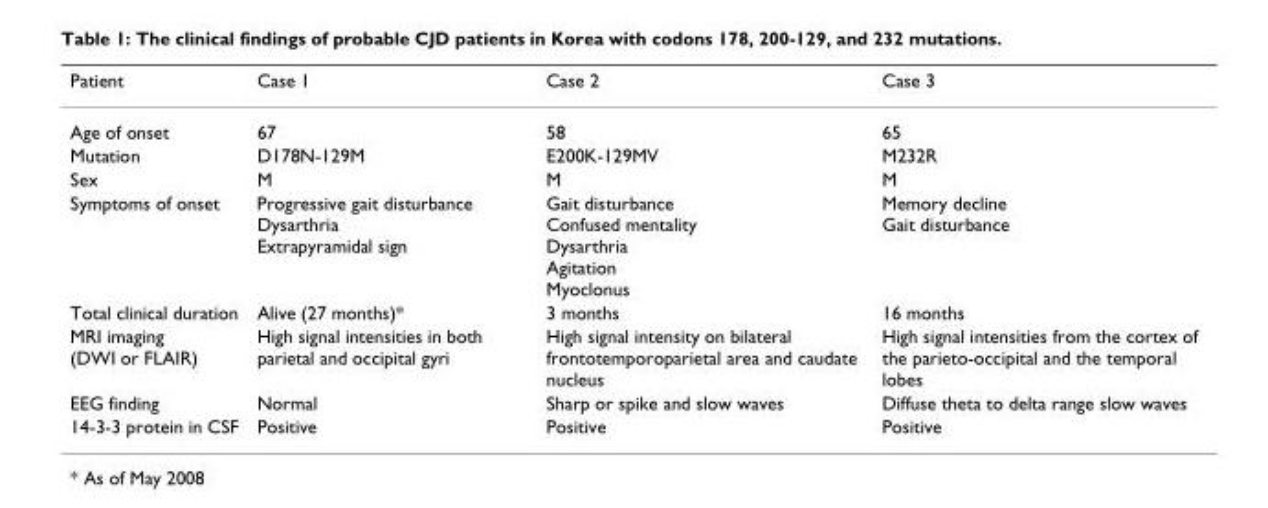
<table><thead><tr><td>Patient</td><td>Case 1</td><td>Case 2</td><td>Case 3</td></tr></thead><tbody><tr><td>Age of onset</td><td>67</td><td>58</td><td>65</td></tr><tr><td>Mutation</td><td>D178N-129M</td><td>E200K-129MV</td><td>M232R</td></tr><tr><td>Sex</td><td>M</td><td>M</td><td>M</td></tr><tr><td>Symptoms of onset</td><td>Progressive gait disturbance Dysarthria Extrapyramidal sign</td><td>Gait disturbance Confused mentality Dysarthria Agitation Myoclonus</td><td>Memory decline Gait disturbance</td></tr><tr><td>Total clinical duration</td><td>Alive (27 months)*</td><td>3 months</td><td>16 months</td></tr><tr><td>MRI imaging (DWI or FLAIR)</td><td>High signal intensities in both parietal and occipital gyri</td><td>High signal intensity on bilateral frontotemporoparietal area and caudate nucleus</td><td>High signal intensities from the cortex of the parieto-occipital and the temporal lobes</td></tr><tr><td>EEG finding</td><td>Normal</td><td>Sharp or spike and slow waves</td><td>Diffuse theta to delta range slow waves</td></tr><tr><td>14-3-3 protein in CSF</td><td>Positive</td><td>Positive</td><td>Positive</td></tr></tbody></table>